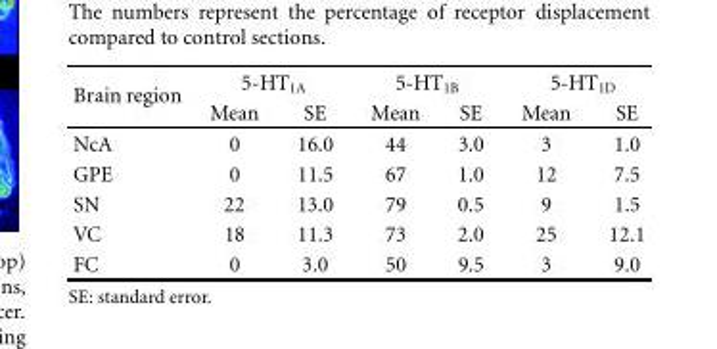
<table><thead><tr><td rowspan="2">Brain region</td><td colspan="2">5-HT<sub>1A</sub></td><td colspan="2">5-HT<sub>1B</sub></td><td colspan="2">5-HT<sub>1D</sub></td></tr><tr><td>Mean</td><td>SE</td><td>Mean</td><td>SE</td><td>Mean</td><td>SE</td></tr></thead><tbody><tr><td>NcA</td><td>0</td><td>16.0</td><td>44</td><td>3.0</td><td>3</td><td>1.0</td></tr><tr><td>GPE</td><td>0</td><td>11.5</td><td>67</td><td>1.0</td><td>12</td><td>7.5</td></tr><tr><td>SN</td><td>22</td><td>13.0</td><td>79</td><td>0.5</td><td>9</td><td>1.5</td></tr><tr><td>VC</td><td>18</td><td>11.3</td><td>73</td><td>2.0</td><td>25</td><td>12.1</td></tr><tr><td>FC</td><td>0</td><td>3.0</td><td>50</td><td>9.5</td><td>3</td><td>9.0</td></tr></tbody></table>